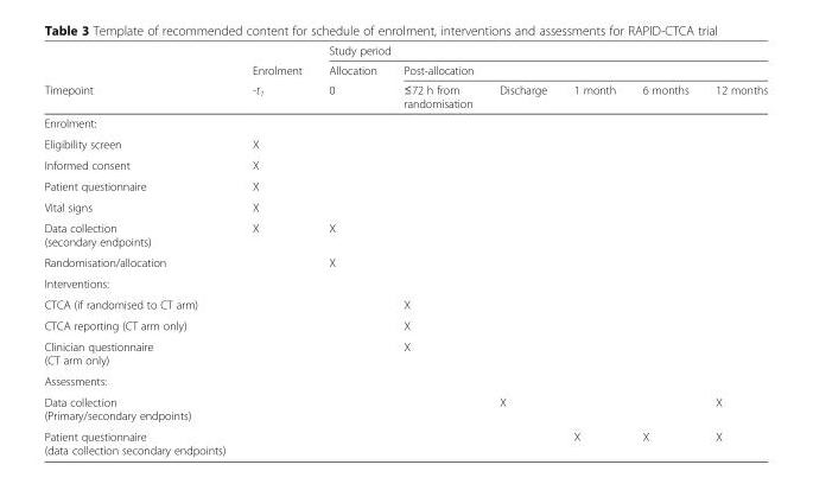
<table><thead><tr><td rowspan="3">Timepoint</td><td rowspan="3">Enrolment -t<sub>1</sub></td><td colspan="6">Study period</td></tr><tr><td rowspan="2">Allocation 0</td><td colspan="5">Post-allocation</td></tr><tr><td>≤72 h from randomisation</td><td>Discharge</td><td>1 month</td><td>6 months</td><td>12 months</td></tr></thead><tbody><tr><td colspan="8">Enrolment:</td></tr><tr><td>Eligibility screen</td><td>X</td><td></td><td></td><td></td><td></td><td></td><td></td></tr><tr><td>Informed consent</td><td>X</td><td></td><td></td><td></td><td></td><td></td><td></td></tr><tr><td>Patient questionnaire</td><td>X</td><td></td><td></td><td></td><td></td><td></td><td></td></tr><tr><td>Vital signs</td><td>X</td><td></td><td></td><td></td><td></td><td></td><td></td></tr><tr><td>Data collection (secondary endpoints)</td><td>X</td><td>X</td><td></td><td></td><td></td><td></td><td></td></tr><tr><td>Randomisation/allocation</td><td></td><td>X</td><td></td><td></td><td></td><td></td><td></td></tr><tr><td colspan="8">Interventions:</td></tr><tr><td>CTCA (if randomised to CT arm)</td><td></td><td></td><td>X</td><td></td><td></td><td></td><td></td></tr><tr><td>CTCA reporting (CT arm only)</td><td></td><td></td><td>X</td><td></td><td></td><td></td><td></td></tr><tr><td>Clinician questionnaire (CT arm only)</td><td></td><td></td><td>X</td><td></td><td></td><td></td><td></td></tr><tr><td colspan="8">Assessments:</td></tr><tr><td>Data collection (Primary/secondary endpoints)</td><td></td><td></td><td></td><td>X</td><td></td><td></td><td>X</td></tr><tr><td>Patient questionnaire (data collection secondary endpoints)</td><td></td><td></td><td></td><td></td><td>X</td><td>X</td><td>X</td></tr></tbody></table>